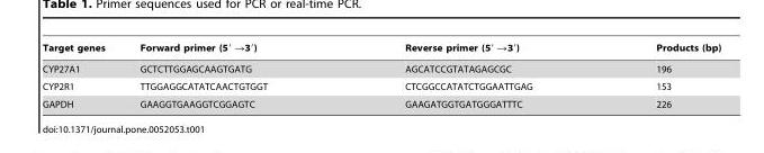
<table><thead><tr><td>Target genes</td><td>Forward primer (5′ →3′)</td><td>Reverse primer (5′ →3′)</td><td>Products (bp)</td></tr></thead><tbody><tr><td>CYP27A1</td><td>GCTCTTGGAGCAAGTGATG</td><td>AGCATCCGTATAGAGCGC</td><td>196</td></tr><tr><td>CYP2R1</td><td>TTGGAGGCATATCAACTGTGGT</td><td>CTCGGCCATATCTGGAATTGAG</td><td>153</td></tr><tr><td>GAPDH</td><td>GAAGGTGAAGGTCGGAGTC</td><td>GAAGATGGTGATGGGATTTC</td><td>226</td></tr></tbody></table>